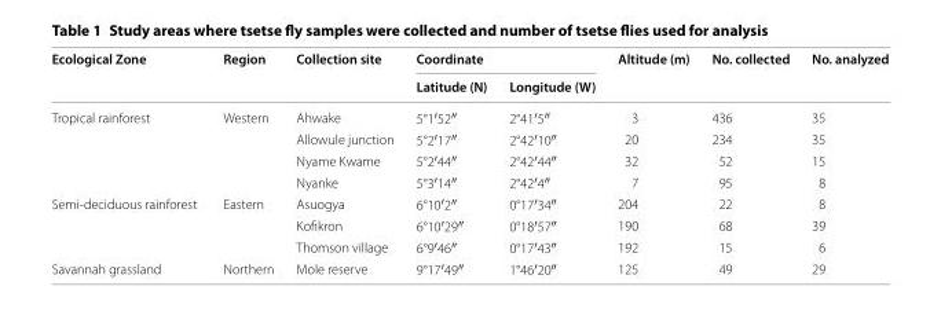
<table><thead><tr><td rowspan="2">Ecological Zone</td><td rowspan="2">Region</td><td rowspan="2">Collection site</td><td colspan="2">Coordinate</td><td rowspan="2">Altitude (m)</td><td rowspan="2">No. collected</td><td rowspan="2">No. analyzed</td></tr><tr><td>Latitude (N)</td><td>Longitude (W)</td></tr></thead><tbody><tr><td rowspan="4">Tropical rainforest</td><td rowspan="4">Western</td><td>Ahwake</td><td>5°1′52″</td><td>2°41′5″</td><td>3</td><td>436</td><td>35</td></tr><tr><td>Allowule junction</td><td>5°2′17″</td><td>2°42′10″</td><td>20</td><td>234</td><td>35</td></tr><tr><td>Nyame Kwame</td><td>5°2′44″</td><td>2°42′44″</td><td>32</td><td>52</td><td>15</td></tr><tr><td>Nyanke</td><td>5°3′14″</td><td>2°42′4″</td><td>7</td><td>95</td><td>8</td></tr><tr><td rowspan="3">Semi‑deciduous rainforest</td><td rowspan="3">Eastern</td><td>Asuogya</td><td>6°10′2″</td><td>0°17′34″</td><td>204</td><td>22</td><td>8</td></tr><tr><td>Kofikron</td><td>6°10′29″</td><td>0°18′57″</td><td>190</td><td>68</td><td>39</td></tr><tr><td>Thomson village</td><td>6°9′46″</td><td>0°17′43″</td><td>192</td><td>15</td><td>6</td></tr><tr><td>Savannah grassland</td><td>Northern</td><td>Mole reserve</td><td>9°17′49″</td><td>1°46′20″</td><td>125</td><td>49</td><td>29</td></tr></tbody></table>